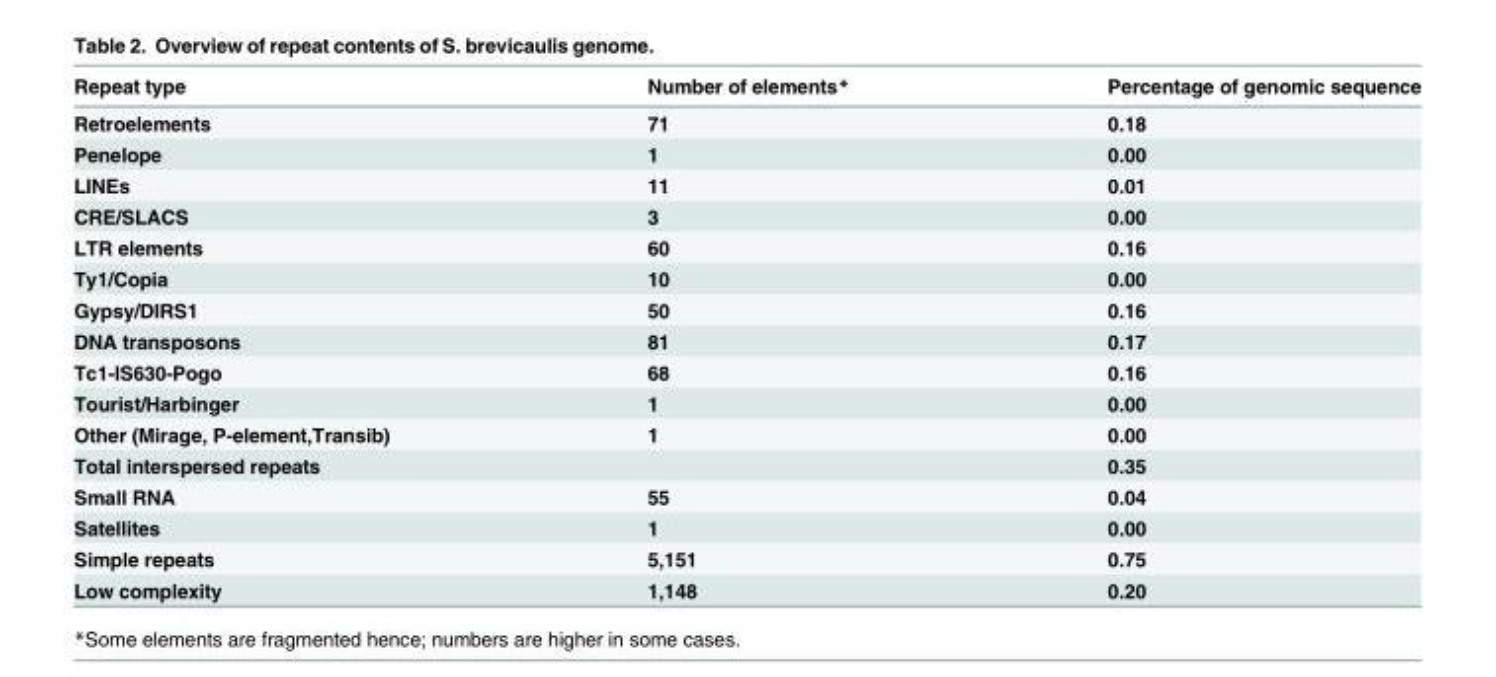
<table><thead><tr><td>Repeat type</td><td>Number of elements*</td><td>Percentage of genomic sequence</td></tr></thead><tbody><tr><td>Retroelements</td><td>71</td><td>0.18</td></tr><tr><td>Penelope</td><td>1</td><td>0.00</td></tr><tr><td>LINEs</td><td>11</td><td>0.01</td></tr><tr><td>CRE/SLACS</td><td>3</td><td>0.00</td></tr><tr><td>LTR elements</td><td>60</td><td>0.16</td></tr><tr><td>Ty1/Copia</td><td>10</td><td>0.00</td></tr><tr><td>Gypsy/DIRS1</td><td>50</td><td>0.16</td></tr><tr><td>DNA transposons</td><td>81</td><td>0.17</td></tr><tr><td>Tc1-IS630-Pogo</td><td>68</td><td>0.16</td></tr><tr><td>Tourist/Harbinger</td><td>1</td><td>0.00</td></tr><tr><td>Other (Mirage, P-element,Transib)</td><td>1</td><td>0.00</td></tr><tr><td colspan="2">Total interspersed repeats</td><td>0.35</td></tr><tr><td>Small RNA</td><td>55</td><td>0.04</td></tr><tr><td>Satellites</td><td>1</td><td>0.00</td></tr><tr><td>Simple repeats</td><td>5,151</td><td>0.75</td></tr><tr><td>Low complexity</td><td>1,148</td><td>0.20</td></tr></tbody></table>